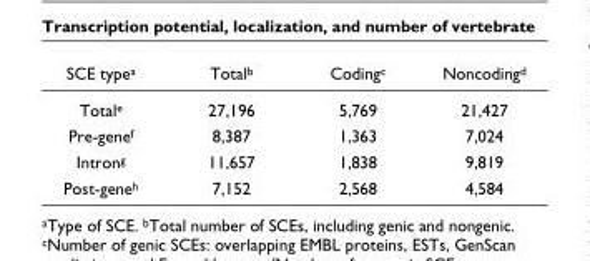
<table><thead><tr><td>SCE typea</td><td>Totalb</td><td>Codingc</td><td>Noncodingd</td></tr></thead><tbody><tr><td>Totale</td><td>27,196</td><td>5,769</td><td>21,427</td></tr><tr><td>Pre-genef</td><td>8,387</td><td>1,363</td><td>7,024</td></tr><tr><td>Introng</td><td>11,657</td><td>1,838</td><td>9,819</td></tr><tr><td>Post-geneh</td><td>7,152</td><td>2,568</td><td>4,584</td></tr></tbody></table>